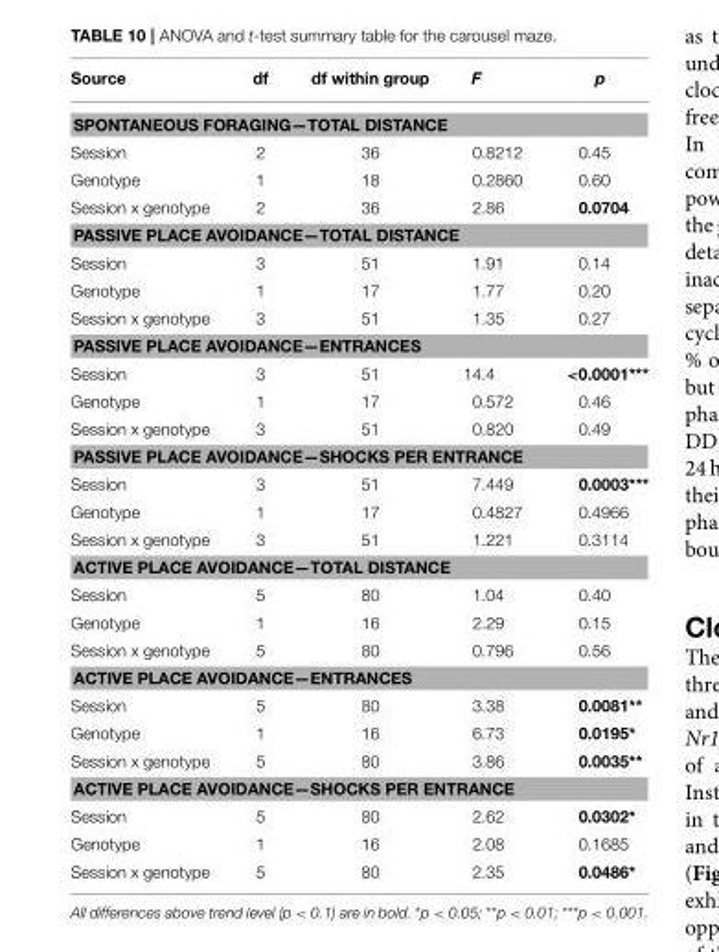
<table><thead><tr><td>Source</td><td>df</td><td>df within group</td><td>F</td><td>p</td></tr></thead><tbody><tr><td colspan="5">SPONTANEOUS FORAGING—TOTAL DISTANCE</td></tr><tr><td>Session</td><td>2</td><td>36</td><td>0.8212</td><td>0.45</td></tr><tr><td>Genotype</td><td>1</td><td>18</td><td>0.2860</td><td>0.60</td></tr><tr><td>Session x genotype</td><td>2</td><td>36</td><td>2.86</td><td>0.0704</td></tr><tr><td colspan="5">PASSIVE PLACE AVOIDANCE—TOTAL DISTANCE</td></tr><tr><td>Session</td><td>3</td><td>51</td><td>1.91</td><td>0.14</td></tr><tr><td>Genotype</td><td>1</td><td>17</td><td>1.77</td><td>0.20</td></tr><tr><td>Session x genotype</td><td>3</td><td>51</td><td>1.35</td><td>0.27</td></tr><tr><td colspan="5">PASSIVE PLACE AVOIDANCE—ENTRANCES</td></tr><tr><td>Session</td><td>3</td><td>51</td><td>14.4</td><td>&lt;0.0001***</td></tr><tr><td>Genotype</td><td>1</td><td>17</td><td>0.572</td><td>0.46</td></tr><tr><td>Session x genotype</td><td>3</td><td>51</td><td>0.820</td><td>0.49</td></tr><tr><td colspan="5">PASSIVE PLACE AVOIDANCE—SHOCKS PER ENTRANCE</td></tr><tr><td>Session</td><td>3</td><td>51</td><td>7.449</td><td>0.0003***</td></tr><tr><td>Genotype</td><td>1</td><td>17</td><td>0.4827</td><td>0.4966</td></tr><tr><td>Session x genotype</td><td>3</td><td>51</td><td>1.221</td><td>0.3114</td></tr><tr><td colspan="5">ACTIVE PLACE AVOIDANCE—TOTAL DISTANCE</td></tr><tr><td>Session</td><td>5</td><td>80</td><td>1.04</td><td>0.40</td></tr><tr><td>Genotype</td><td>1</td><td>16</td><td>2.29</td><td>0.15</td></tr><tr><td>Session x genotype</td><td>5</td><td>80</td><td>0.796</td><td>0.56</td></tr><tr><td colspan="5">ACTIVE PLACE AVOIDANCE—ENTRANCES</td></tr><tr><td>Session</td><td>5</td><td>80</td><td>3.38</td><td>0.0081**</td></tr><tr><td>Genotype</td><td>1</td><td>16</td><td>6.73</td><td>0.0195*</td></tr><tr><td>Session x genotype</td><td>5</td><td>80</td><td>3.86</td><td>0.0035**</td></tr><tr><td colspan="5">ACTIVE PLACE AVOIDANCE—SHOCKS PER ENTRANCE</td></tr><tr><td>Session</td><td>5</td><td>80</td><td>2.62</td><td>0.0302*</td></tr><tr><td>Genotype</td><td>1</td><td>16</td><td>2.08</td><td>0.1685</td></tr><tr><td>Session x genotype</td><td>5</td><td>80</td><td>2.35</td><td>0.0486*</td></tr></tbody></table>